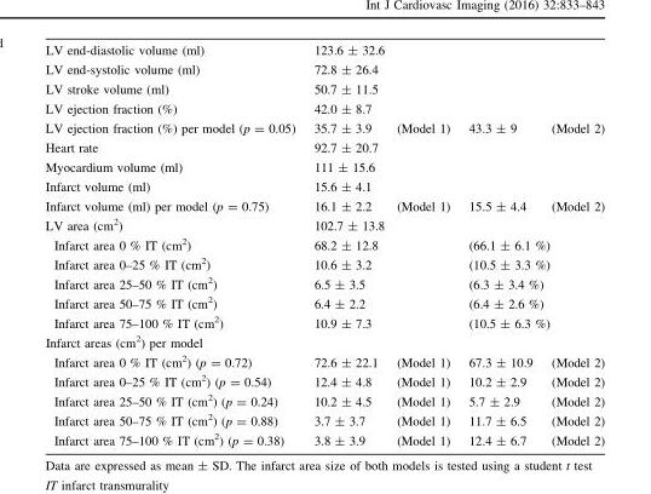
<table><tbody><tr><td>LV end-diastolic volume (ml)</td><td colspan="4">123.6 ± 32.6</td></tr><tr><td>LV end-systolic volume (ml)</td><td colspan="4">72.8 ± 26.4</td></tr><tr><td>LV stroke volume (ml)</td><td colspan="4">50.7 ± 11.5</td></tr><tr><td>LV ejection fraction (%)</td><td colspan="4">42.0 ± 8.7</td></tr><tr><td>LV ejection fraction (%) per model (p = 0.05)</td><td>35.7 ± 3.9</td><td>(Model 1)</td><td>43.3 ± 9</td><td>(Model 2)</td></tr><tr><td>Heart rate</td><td colspan="4">92.7 ± 20.7</td></tr><tr><td>Myocardium volume (ml)</td><td colspan="4">111 ± 15.6</td></tr><tr><td>Infarct volume (ml)</td><td colspan="4">15.6 ± 4.1</td></tr><tr><td>Infarct volume (ml) per model (p = 0.75)</td><td>16.1 ± 2.2</td><td>(Model 1)</td><td>15.5 ± 4.4</td><td>(Model 2)</td></tr><tr><td>LV area (cm<sup>2</sup>)</td><td colspan="4">102.7 ± 13.8</td></tr><tr><td>Infarct area 0 % IT (cm<sup>2</sup>)</td><td colspan="2">68.2 ± 12.8</td><td colspan="2">(66.1 ± 6.1 %)</td></tr><tr><td>Infarct area 0–25 % IT (cm<sup>2</sup>)</td><td colspan="2">10.6 ± 3.2</td><td colspan="2">(10.5 ± 3.3 %)</td></tr><tr><td>Infarct area 25–50 % IT (cm<sup>2</sup>)</td><td colspan="2">6.5 ± 3.5</td><td colspan="2">(6.3 ± 3.4 %)</td></tr><tr><td>Infarct area 50–75 % IT (cm<sup>2</sup>)</td><td colspan="2">6.4 ± 2.2</td><td colspan="2">(6.4 ± 2.6 %)</td></tr><tr><td>Infarct area 75–100 % IT (cm<sup>2</sup>)</td><td colspan="2">10.9 ± 7.3</td><td colspan="2">(10.5 ± 6.3 %)</td></tr><tr><td colspan="5">Infarct areas (cm<sup>2</sup>) per model</td></tr><tr><td>Infarct area 0 % IT (cm<sup>2</sup>) (p = 0.72)</td><td>72.6 ± 22.1</td><td>(Model 1)</td><td>67.3 ± 10.9</td><td>(Model 2)</td></tr><tr><td>Infarct area 0–25 % IT (cm<sup>2</sup>) (p = 0.54)</td><td>12.4 ± 4.8</td><td>(Model 1)</td><td>10.2 ± 2.9</td><td>(Model 2)</td></tr><tr><td>Infarct area 25–50 % IT (cm<sup>2</sup>) (p = 0.24)</td><td>10.2 ± 4.5</td><td>(Model 1)</td><td>5.7 ± 2.9</td><td>(Model 2)</td></tr><tr><td>Infarct area 50–75 % IT (cm<sup>2</sup>) (p = 0.88)</td><td>3.7 ± 3.7</td><td>(Model 1)</td><td>11.7 ± 6.5</td><td>(Model 2)</td></tr><tr><td>Infarct area 75–100 % IT (cm<sup>2</sup>) (p = 0.38)</td><td>3.8 ± 3.9</td><td>(Model 1)</td><td>12.4 ± 6.7</td><td>(Model 2)</td></tr></tbody></table>